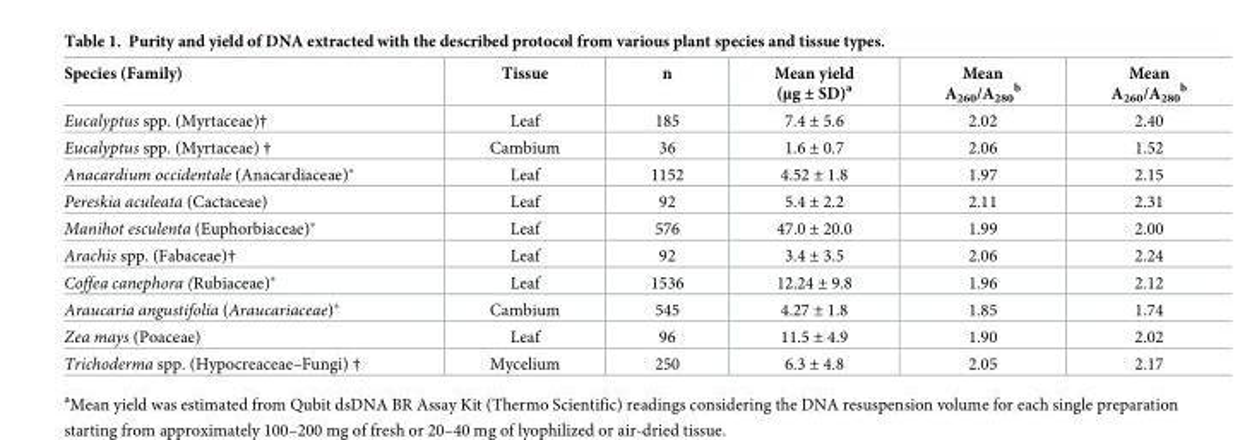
<table><thead><tr><td>Species (Family)</td><td>Tissue</td><td>n</td><td>Mean yield (μg ± SD)<sup>a</sup></td><td>Mean A<sub>260</sub>/A<sub>280</sub> <sup>b</sup></td><td>Mean A<sub>260</sub>/A<sub>280</sub> <sup>b</sup></td></tr></thead><tbody><tr><td>Eucalyptus spp. (Myrtaceae)†</td><td>Leaf</td><td>185</td><td>7.4 ± 5.6</td><td>2.02</td><td>2.40</td></tr><tr><td>Eucalyptus spp. (Myrtaceae) †</td><td>Cambium</td><td>36</td><td>1.6 ± 0.7</td><td>2.06</td><td>1.52</td></tr><tr><td>Anacardium occidentale (Anacardiaceae)*</td><td>Leaf</td><td>1152</td><td>4.52 ± 1.8</td><td>1.97</td><td>2.15</td></tr><tr><td>Pereskia aculeata (Cactaceae)</td><td>Leaf</td><td>92</td><td>5.4 ± 2.2</td><td>2.11</td><td>2.31</td></tr><tr><td>Manihot esculenta (Euphorbiaceae)*</td><td>Leaf</td><td>576</td><td>47.0 ± 20.0</td><td>1.99</td><td>2.00</td></tr><tr><td>Arachis spp. (Fabaceae)†</td><td>Leaf</td><td>92</td><td>3.4 ± 3.5</td><td>2.06</td><td>2.24</td></tr><tr><td>Coffea canephora (Rubiaceae)*</td><td>Leaf</td><td>1536</td><td>12.24 ± 9.8</td><td>1.96</td><td>2.12</td></tr><tr><td>Araucaria angustifolia (Araucariaceae)*</td><td>Cambium</td><td>545</td><td>4.27 ± 1.8</td><td>1.85</td><td>1.74</td></tr><tr><td>Zea mays (Poaceae)</td><td>Leaf</td><td>96</td><td>11.5 ± 4.9</td><td>1.90</td><td>2.02</td></tr><tr><td>Trichoderma spp. (Hypocreaceae–Fungi) †</td><td>Mycelium</td><td>250</td><td>6.3 ± 4.8</td><td>2.05</td><td>2.17</td></tr></tbody></table>